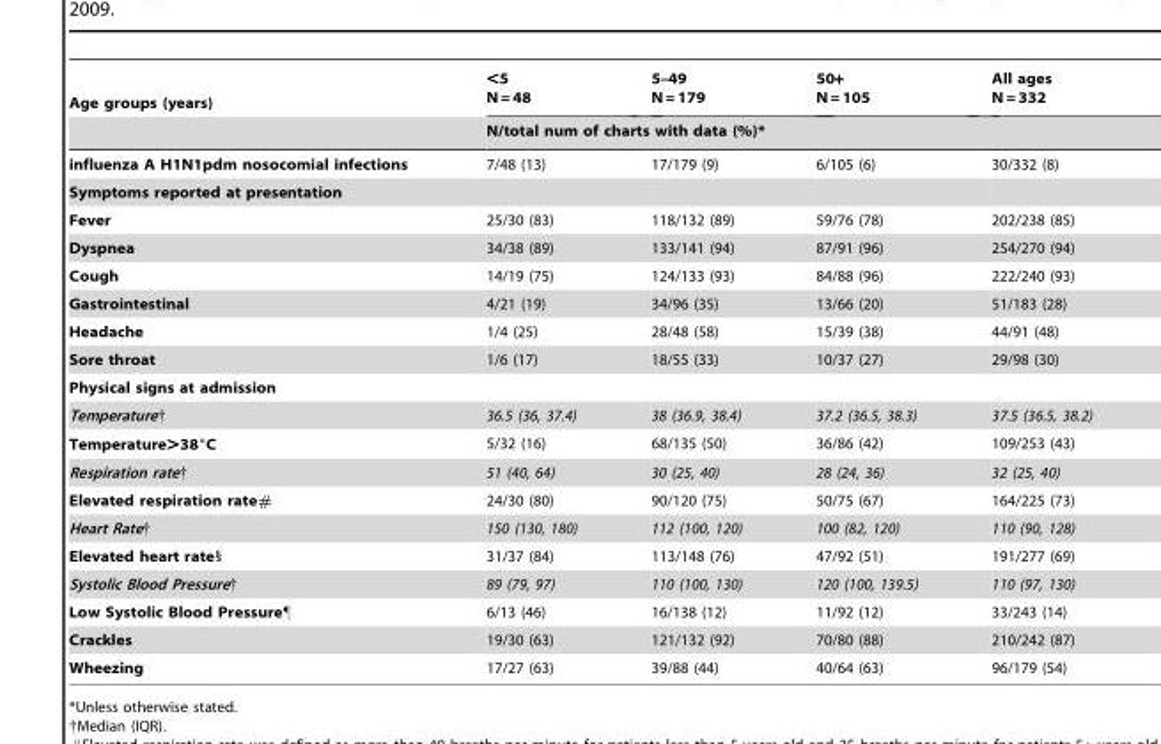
<table><thead><tr><td rowspan="2">Age groups (years)</td><td>&lt;5 N = 48</td><td>5–49 N = 179</td><td>50+ N = 105</td><td>All ages N = 332</td></tr><tr><td colspan="4">N/total num of charts with data (%)*</td></tr></thead><tbody><tr><td>influenza A H1N1pdm nosocomial infections</td><td>7/48 (13)</td><td>17/179 (9)</td><td>6/105 (6)</td><td>30/332 (8)</td></tr><tr><td colspan="5">Symptoms reported at presentation</td></tr><tr><td>Fever</td><td>25/30 (83)</td><td>118/132 (89)</td><td>59/76 (78)</td><td>202/238 (85)</td></tr><tr><td>Dyspnea</td><td>34/38 (89)</td><td>133/141 (94)</td><td>87/91 (96)</td><td>254/270 (94)</td></tr><tr><td>Cough</td><td>14/19 (75)</td><td>124/133 (93)</td><td>84/88 (96)</td><td>222/240 (93)</td></tr><tr><td>Gastrointestinal</td><td>4/21 (19)</td><td>34/96 (35)</td><td>13/66 (20)</td><td>51/183 (28)</td></tr><tr><td>Headache</td><td>1/4 (25)</td><td>28/48 (58)</td><td>15/39 (38)</td><td>44/91 (48)</td></tr><tr><td>Sore throat</td><td>1/6 (17)</td><td>18/55 (33)</td><td>10/37 (27)</td><td>29/98 (30)</td></tr><tr><td colspan="5">Physical signs at admission</td></tr><tr><td>Temperature†</td><td>36.5 (36, 37.4)</td><td>38 (36.9, 38.4)</td><td>37.2 (36.5, 38.3)</td><td>37.5 (36.5, 38.2)</td></tr><tr><td>Temperature&gt;38°C</td><td>5/32 (16)</td><td>68/135 (50)</td><td>36/86 (42)</td><td>109/253 (43)</td></tr><tr><td>Respiration rate†</td><td>51 (40, 64)</td><td>30 (25, 40)</td><td>28 (24, 36)</td><td>32 (25, 40)</td></tr><tr><td>Elevated respiration rate#</td><td>24/30 (80)</td><td>90/120 (75)</td><td>50/75 (67)</td><td>164/225 (73)</td></tr><tr><td>Heart Rate†</td><td>150 (130, 180)</td><td>112 (100, 120)</td><td>100 (82, 120)</td><td>110 (90, 128)</td></tr><tr><td>Elevated heart rate§</td><td>31/37 (84)</td><td>113/148 (76)</td><td>47/92 (51)</td><td>191/277 (69)</td></tr><tr><td>Systolic Blood Pressure†</td><td>89 (79, 97)</td><td>110 (100, 130)</td><td>120 (100, 139.5)</td><td>110 (97, 130)</td></tr><tr><td>Low Systolic Blood Pressure¶</td><td>6/13 (46)</td><td>16/138 (12)</td><td>11/92 (12)</td><td>33/243 (14)</td></tr><tr><td>Crackles</td><td>19/30 (63)</td><td>121/132 (92)</td><td>70/80 (88)</td><td>210/242 (87)</td></tr><tr><td>Wheezing</td><td>17/27 (63)</td><td>39/88 (44)</td><td>40/64 (63)</td><td>96/179 (54)</td></tr></tbody></table>